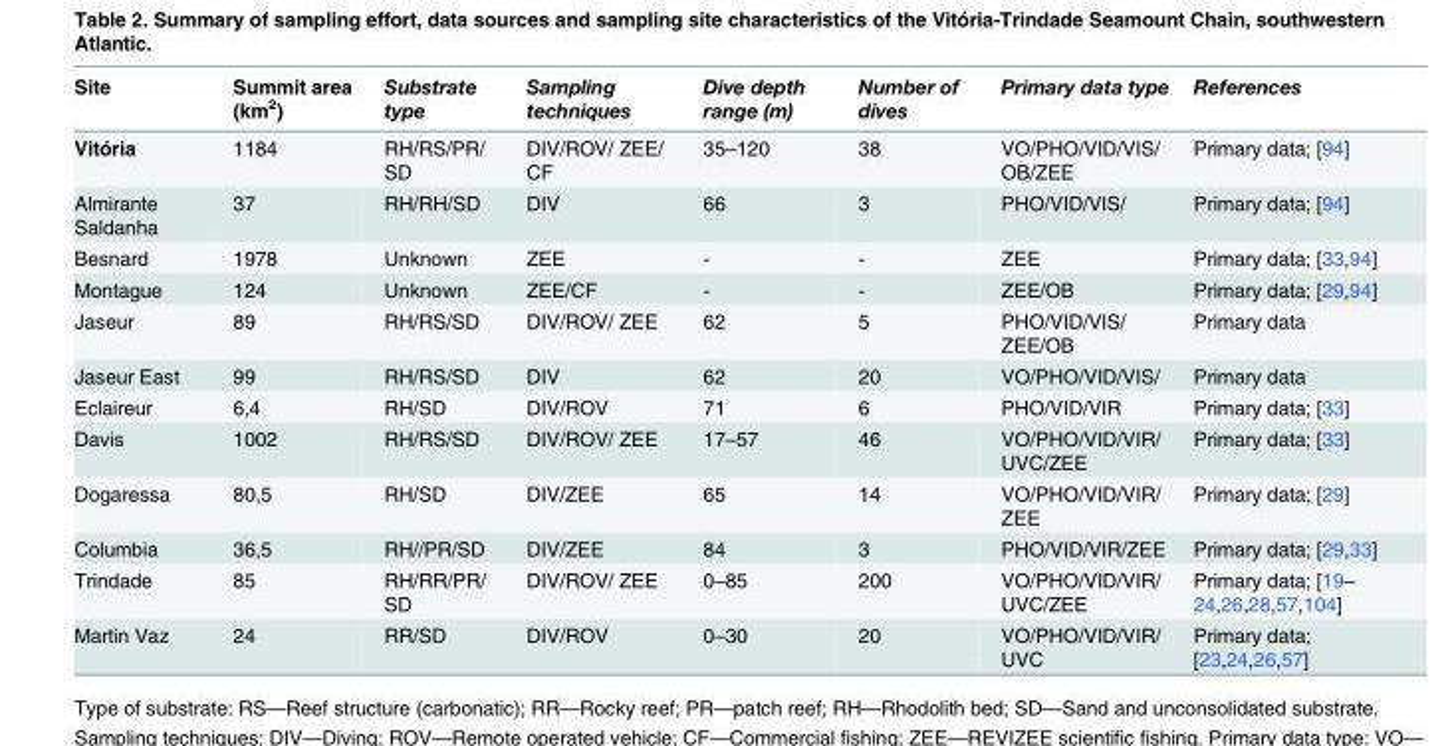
<table><thead><tr><td>Site</td><td>Summit area (km<sup>2</sup>)</td><td>Substrate type</td><td>Sampling techniques</td><td>Dive depth range (m)</td><td>Number of dives</td><td>Primary data type</td><td>References</td></tr></thead><tbody><tr><td>Vitória</td><td>1184</td><td>RH/RS/PR/ SD</td><td>DIV/ROV/ ZEE/ CF</td><td>35–120</td><td>38</td><td>VO/PHO/VID/VIS/ OB/ZEE</td><td>Primary data; [94]</td></tr><tr><td>Almirante Saldanha</td><td>37</td><td>RH/RH/SD</td><td>DIV</td><td>66</td><td>3</td><td>PHO/VID/VIS/</td><td>Primary data; [94]</td></tr><tr><td>Besnard</td><td>1978</td><td>Unknown</td><td>ZEE</td><td>-</td><td>-</td><td>ZEE</td><td>Primary data; [33,94]</td></tr><tr><td>Montague</td><td>124</td><td>Unknown</td><td>ZEE/CF</td><td>-</td><td>-</td><td>ZEE/OB</td><td>Primary data; [29,94]</td></tr><tr><td>Jaseur</td><td>89</td><td>RH/RS/SD</td><td>DIV/ROV/ ZEE</td><td>62</td><td>5</td><td>PHO/VID/VIS/ ZEE/OB</td><td>Primary data</td></tr><tr><td>Jaseur East</td><td>99</td><td>RH/RS/SD</td><td>DIV</td><td>62</td><td>20</td><td>VO/PHO/VID/VIS/</td><td>Primary data</td></tr><tr><td>Eclaireur</td><td>6,4</td><td>RH/SD</td><td>DIV/ROV</td><td>71</td><td>6</td><td>PHO/VID/VIR</td><td>Primary data; [33]</td></tr><tr><td>Davis</td><td>1002</td><td>RH/RS/SD</td><td>DIV/ROV/ ZEE</td><td>17–57</td><td>46</td><td>VO/PHO/VID/VIR/ UVC/ZEE</td><td>Primary data; [33]</td></tr><tr><td>Dogaressa</td><td>80,5</td><td>RH/SD</td><td>DIV/ZEE</td><td>65</td><td>14</td><td>VO/PHO/VID/VIR/ ZEE</td><td>Primary data; [29]</td></tr><tr><td>Columbia</td><td>36,5</td><td>RH//PR/SD</td><td>DIV/ZEE</td><td>84</td><td>3</td><td>PHO/VID/VIR/ZEE</td><td>Primary data; [29,33]</td></tr><tr><td>Trindade</td><td>85</td><td>RH/RR/PR/ SD</td><td>DIV/ROV/ ZEE</td><td>0–85</td><td>200</td><td>VO/PHO/VID/VIR/ UVC/ZEE</td><td>Primary data; [19– 24,26,28,57,104]</td></tr><tr><td>Martin Vaz</td><td>24</td><td>RR/SD</td><td>DIV/ROV</td><td>0–30</td><td>20</td><td>VO/PHO/VID/VIR/ UVC</td><td>Primary data; [23,24,26,57]</td></tr></tbody></table>